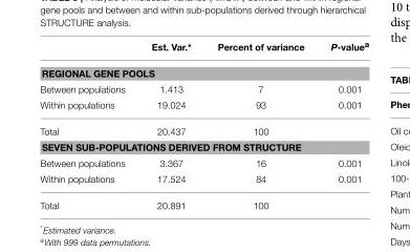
<table><thead><tr><td></td><td>Est. Var.*</td><td>Percent of variance</td><td>P-value<sup>a</sup></td></tr></thead><tbody><tr><td colspan="4">REGIONAL GENE POOLS</td></tr><tr><td>Between populations</td><td>1.413</td><td>7</td><td>0.001</td></tr><tr><td>Within populations</td><td>19.024</td><td>93</td><td>0.001</td></tr><tr><td>Total</td><td>20.437</td><td>100</td><td></td></tr><tr><td colspan="4">SEVEN SUB-POPULATIONS DERIVED FROM STRUCTURE</td></tr><tr><td>Between populations</td><td>3.367</td><td>16</td><td>0.001</td></tr><tr><td>Within populations</td><td>17.524</td><td>84</td><td>0.001</td></tr><tr><td>Total</td><td>20.891</td><td>100</td><td></td></tr></tbody></table>